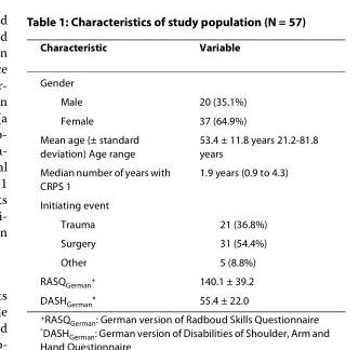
<table><thead><tr><td>Characteristic</td><td>Variable</td></tr></thead><tbody><tr><td colspan="2">Gender</td></tr><tr><td>Male</td><td>20 (35.1%)</td></tr><tr><td>Female</td><td>37 (64.9%)</td></tr><tr><td>Mean age (± standard deviation) Age range</td><td>53.4 ± 11.8 years 21.2-81.8 years</td></tr><tr><td>Median number of years with CRPS 1</td><td>1.9 years (0.9 to 4.3)</td></tr><tr><td colspan="2">Initiating event</td></tr><tr><td>Trauma</td><td>21 (36.8%)</td></tr><tr><td>Surgery</td><td>31 (54.4%)</td></tr><tr><td>Other</td><td>5 (8.8%)</td></tr><tr><td>RASQ<sub>German</sub><sup>+</sup></td><td>140.1 ± 39.2</td></tr><tr><td>DASH<sub>German</sub>&quot;</td><td>55.4 ± 22.0</td></tr></tbody></table>